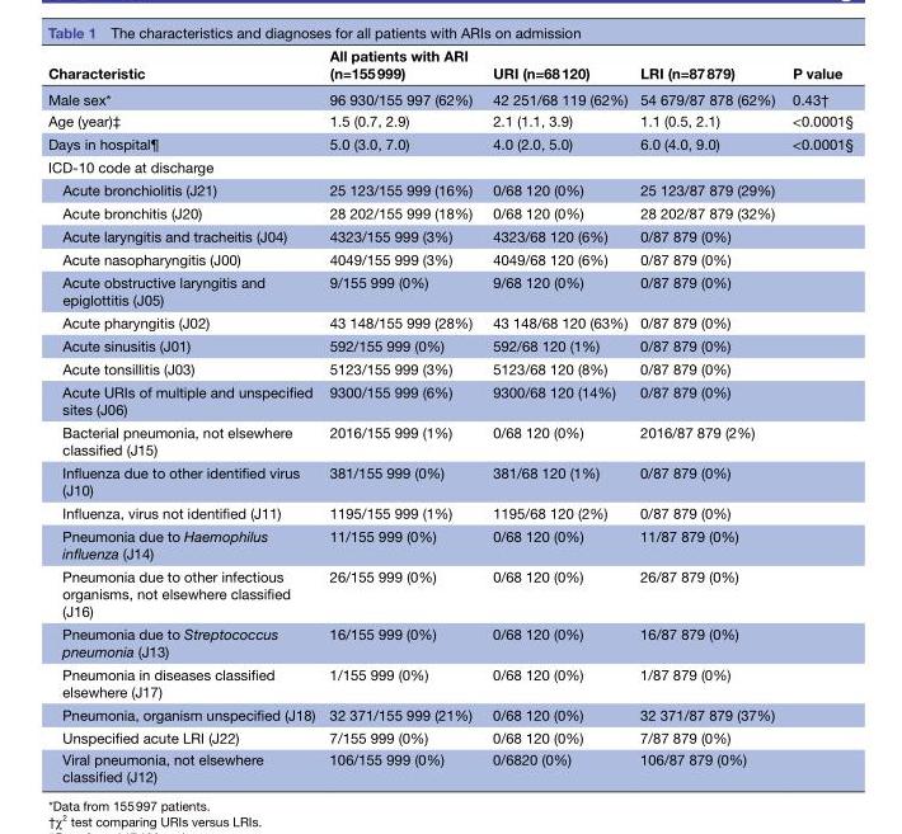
<table><thead><tr><td>Characteristic</td><td>All patients with ARI (n=155 999)</td><td>URI (n=68 120)</td><td>LRI (n=87 879)</td><td>P value</td></tr></thead><tbody><tr><td>Male sex*</td><td>96 930/155 997 (62%)</td><td>42 251/68 119 (62%)</td><td>54 679/87 878 (62%)</td><td>0.43†</td></tr><tr><td>Age (year)‡</td><td>1.5 (0.7, 2.9)</td><td>2.1 (1.1, 3.9)</td><td>1.1 (0.5, 2.1)</td><td>&lt;0.0001§</td></tr><tr><td>Days in hospital¶</td><td>5.0 (3.0, 7.0)</td><td>4.0 (2.0, 5.0)</td><td>6.0 (4.0, 9.0)</td><td>&lt;0.0001§</td></tr><tr><td colspan="5">ICD-10 code at discharge</td></tr><tr><td>Acute bronchiolitis (J21)</td><td>25 123/155 999 (16%)</td><td>0/68 120 (0%)</td><td>25 123/87 879 (29%)</td><td></td></tr><tr><td>Acute bronchitis (J20)</td><td>28 202/155 999 (18%)</td><td>0/68 120 (0%)</td><td>28 202/87 879 (32%)</td><td></td></tr><tr><td>Acute laryngitis and tracheitis (J04)</td><td>4323/155 999 (3%)</td><td>4323/68 120 (6%)</td><td>0/87 879 (0%)</td><td></td></tr><tr><td>Acute nasopharyngitis (J00)</td><td>4049/155 999 (3%)</td><td>4049/68 120 (6%)</td><td>0/87 879 (0%)</td><td></td></tr><tr><td>Acute obstructive laryngitis and epiglottitis (J05)</td><td>9/155 999 (0%)</td><td>9/68 120 (0%)</td><td>0/87 879 (0%)</td><td></td></tr><tr><td>Acute pharyngitis (J02)</td><td>43 148/155 999 (28%)</td><td>43 148/68 120 (63%)</td><td>0/87 879 (0%)</td><td></td></tr><tr><td>Acute sinusitis (J01)</td><td>592/155 999 (0%)</td><td>592/68 120 (1%)</td><td>0/87 879 (0%)</td><td></td></tr><tr><td>Acute tonsillitis (J03)</td><td>5123/155 999 (3%)</td><td>5123/68 120 (8%)</td><td>0/87 879 (0%)</td><td></td></tr><tr><td>Acute URIs of multiple and unspecified sites (J06)</td><td>9300/155 999 (6%)</td><td>9300/68 120 (14%)</td><td>0/87 879 (0%)</td><td></td></tr><tr><td>Bacterial pneumonia, not elsewhere classified (J15)</td><td>2016/155 999 (1%)</td><td>0/68 120 (0%)</td><td>2016/87 879 (2%)</td><td></td></tr><tr><td>Influenza due to other identified virus (J10)</td><td>381/155 999 (0%)</td><td>381/68 120 (1%)</td><td>0/87 879 (0%)</td><td></td></tr><tr><td>Influenza, virus not identified (J11)</td><td>1195/155 999 (1%)</td><td>1195/68 120 (2%)</td><td>0/87 879 (0%)</td><td></td></tr><tr><td>Pneumonia due to Haemophilus influenza (J14)</td><td>11/155 999 (0%)</td><td>0/68 120 (0%)</td><td>11/87 879 (0%)</td><td></td></tr><tr><td>Pneumonia due to other infectious organisms, not elsewhere classified (J16)</td><td>26/155 999 (0%)</td><td>0/68 120 (0%)</td><td>26/87 879 (0%)</td><td></td></tr><tr><td>Pneumonia due to Streptococcus pneumonia (J13)</td><td>16/155 999 (0%)</td><td>0/68 120 (0%)</td><td>16/87 879 (0%)</td><td></td></tr><tr><td>Pneumonia in diseases classified elsewhere (J17)</td><td>1/155 999 (0%)</td><td>0/68 120 (0%)</td><td>1/87 879 (0%)</td><td></td></tr><tr><td>Pneumonia, organism unspecified (J18)</td><td>32 371/155 999 (21%)</td><td>0/68 120 (0%)</td><td>32 371/87 879 (37%)</td><td></td></tr><tr><td>Unspecified acute LRI (J22)</td><td>7/155 999 (0%)</td><td>0/68 120 (0%)</td><td>7/87 879 (0%)</td><td></td></tr><tr><td>Viral pneumonia, not elsewhere classified (J12)</td><td>106/155 999 (0%)</td><td>0/6820 (0%)</td><td>106/87 879 (0%)</td><td></td></tr></tbody></table>